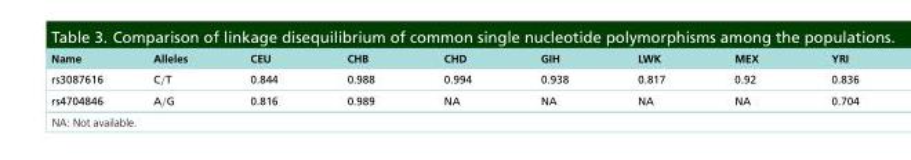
<table><thead><tr><td>Name</td><td>Alleles</td><td>CEU</td><td>CHB</td><td>CHD</td><td>GIH</td><td>LWK</td><td>MEX</td><td>YRI</td></tr></thead><tbody><tr><td>rs3087616</td><td>C/T</td><td>0.844</td><td>0.988</td><td>0.994</td><td>0.938</td><td>0.817</td><td>0.92</td><td>0.836</td></tr><tr><td>rs4704846</td><td>A/G</td><td>0.816</td><td>0.989</td><td>NA</td><td>NA</td><td>NA</td><td>NA</td><td>0.704</td></tr></tbody></table>